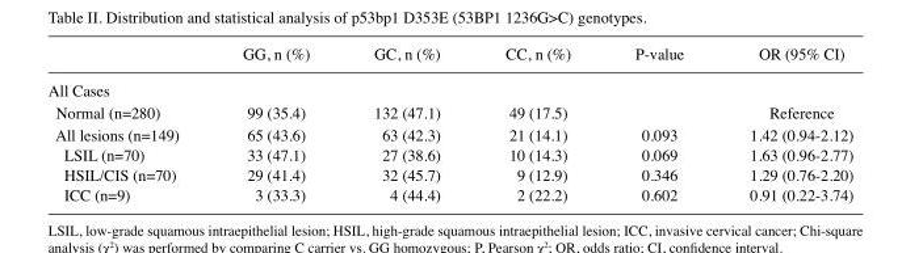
<table><thead><tr><td></td><td>GG, n (%)</td><td>GC, n (%)</td><td>CC, n (%)</td><td>P-value</td><td>OR (95% CI)</td></tr></thead><tbody><tr><td colspan="6">All Cases</td></tr><tr><td>Normal (n=280)</td><td>99 (35.4)</td><td>132 (47.1)</td><td>49 (17.5)</td><td></td><td>Reference</td></tr><tr><td>All lesions (n=149)</td><td>65 (43.6)</td><td>63 (42.3)</td><td>21 (14.1)</td><td>0.093</td><td>1.42 (0.94-2.12)</td></tr><tr><td>LSIL (n=70)</td><td>33 (47.1)</td><td>27 (38.6)</td><td>10 (14.3)</td><td>0.069</td><td>1.63 (0.96-2.77)</td></tr><tr><td>HSIL/CIS (n=70)</td><td>29 (41.4)</td><td>32 (45.7)</td><td>9 (12.9)</td><td>0.346</td><td>1.29 (0.76-2.20)</td></tr><tr><td>ICC (n=9)</td><td>3 (33.3)</td><td>4 (44.4)</td><td>2 (22.2)</td><td>0.602</td><td>0.91 (0.22-3.74)</td></tr></tbody></table>